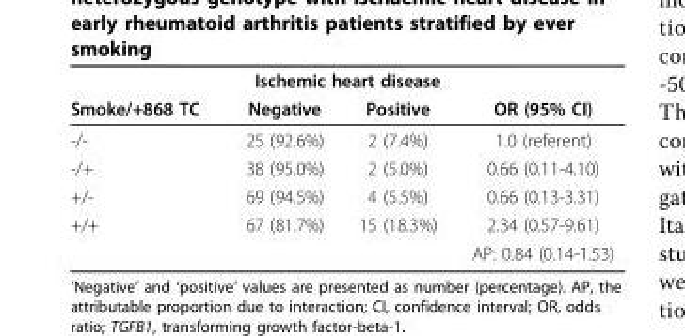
<table><thead><tr><td colspan="4">Ischemic heart disease</td></tr><tr><td>Smoke/+868 TC</td><td>Negative</td><td>Positive</td><td>OR (95% CI)</td></tr></thead><tbody><tr><td>-/-</td><td>25 (92.6%)</td><td>2 (7.4%)</td><td>1.0 (referent)</td></tr><tr><td>-/+</td><td>38 (95.0%)</td><td>2 (5.0%)</td><td>0.66 (0.11-4.10)</td></tr><tr><td>+/-</td><td>69 (94.5%)</td><td>4 (5.5%)</td><td>0.66 (0.13-3.31)</td></tr><tr><td rowspan="2">+/+</td><td>67 (81.7%)</td><td>15 (18.3%)</td><td>2.34 (0.57-9.61)</td></tr><tr><td></td><td></td><td>AP: 0.84 (0.14-1.53)</td></tr></tbody></table>